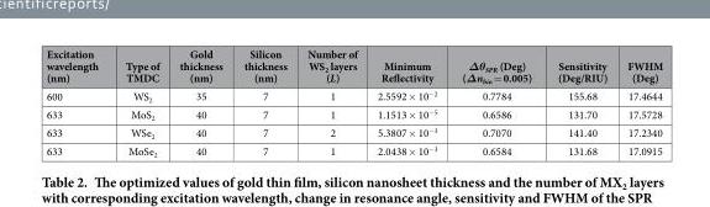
<table><thead><tr><td>Excitation wavelength (nm)</td><td>Type of TMDC</td><td>Gold thickness (nm)</td><td>Silicon thickness (nm)</td><td>Number of WS<sub>2</sub> layers (L)</td><td>Minimum Reflectivity</td><td>Δθ<sub>SPR</sub> (Deg) (Δn<sub>bio</sub> = 0.005)</td><td>Sensitivity (Deg/RIU)</td><td>FWHM (Deg)</td></tr></thead><tbody><tr><td>600</td><td>WS<sub>2</sub></td><td>35</td><td>7</td><td>1</td><td>2.5592 × 10<sup>−2</sup></td><td>0.7784</td><td>155.68</td><td>17.4644</td></tr><tr><td>633</td><td>MoS<sub>2</sub></td><td>40</td><td>7</td><td>1</td><td>1.1513 × 10<sup>−5</sup></td><td>0.6586</td><td>131.70</td><td>17.5728</td></tr><tr><td>633</td><td>WSe<sub>2</sub></td><td>40</td><td>7</td><td>2</td><td>5.3807 × 10<sup>−3</sup></td><td>0.7070</td><td>141.40</td><td>17.2340</td></tr><tr><td>633</td><td>MoSe<sub>2</sub></td><td>40</td><td>7</td><td>1</td><td>2.0438 × 10<sup>−3</sup></td><td>0.6584</td><td>131.68</td><td>17.0915</td></tr></tbody></table>